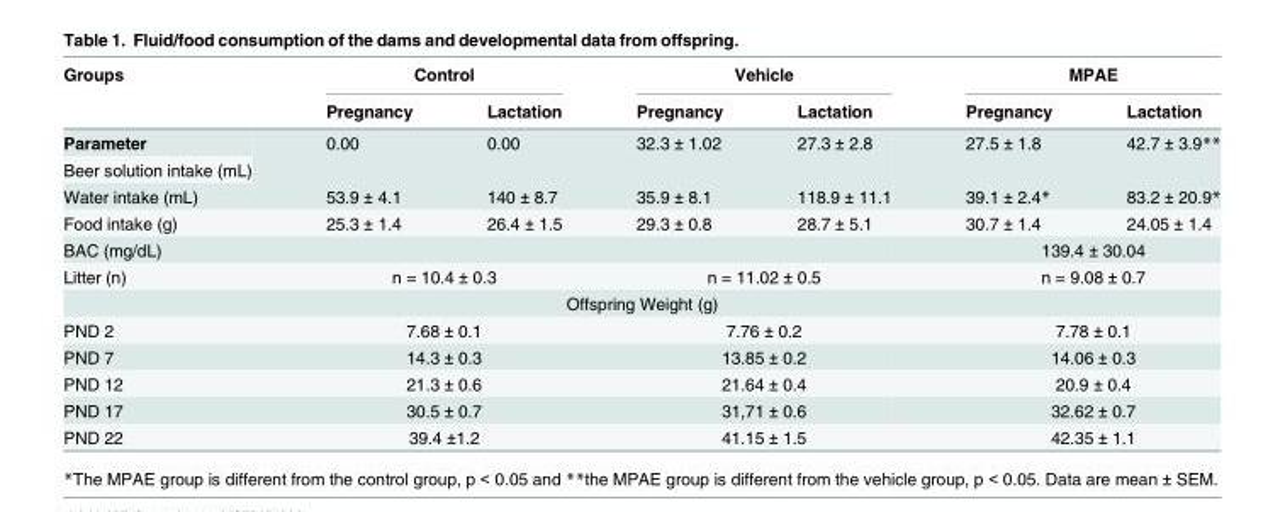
<table><thead><tr><td rowspan="2">Groups</td><td colspan="2">Control</td><td colspan="2">Vehicle</td><td colspan="2">MPAE</td></tr><tr><td>Pregnancy</td><td>Lactation</td><td>Pregnancy</td><td>Lactation</td><td>Pregnancy</td><td>Lactation</td></tr></thead><tbody><tr><td>Parameter</td><td rowspan="2">0.00</td><td rowspan="2">0.00</td><td rowspan="2">32.3 ± 1.02</td><td rowspan="2">27.3 ± 2.8</td><td rowspan="2">27.5 ± 1.8</td><td rowspan="2">42.7 ± 3.9**</td></tr><tr><td>Beer solution intake (mL)</td></tr><tr><td>Water intake (mL)</td><td>53.9 ± 4.1</td><td>140 ± 8.7</td><td>35.9 ± 8.1</td><td>118.9 ± 11.1</td><td>39.1 ± 2.4*</td><td>83.2 ± 20.9*</td></tr><tr><td>Food intake (g)</td><td>25.3 ± 1.4</td><td>26.4 ± 1.5</td><td>29.3 ± 0.8</td><td>28.7 ± 5.1</td><td>30.7 ± 1.4</td><td>24.05 ± 1.4</td></tr><tr><td>BAC (mg/dL)</td><td colspan="2"></td><td colspan="2"></td><td colspan="2">139.4 ± 30.04</td></tr><tr><td>Litter (n)</td><td colspan="2">n = 10.4 ± 0.3</td><td colspan="2">n = 11.02 ± 0.5</td><td colspan="2">n = 9.08 ± 0.7</td></tr><tr><td colspan="7">Offspring Weight (g)</td></tr><tr><td>PND 2</td><td colspan="2">7.68 ± 0.1</td><td colspan="2">7.76 ± 0.2</td><td colspan="2">7.78 ± 0.1</td></tr><tr><td>PND 7</td><td colspan="2">14.3 ± 0.3</td><td colspan="2">13.85 ± 0.2</td><td colspan="2">14.06 ± 0.3</td></tr><tr><td>PND 12</td><td colspan="2">21.3 ± 0.6</td><td colspan="2">21.64 ± 0.4</td><td colspan="2">20.9 ± 0.4</td></tr><tr><td>PND 17</td><td colspan="2">30.5 ± 0.7</td><td colspan="2">31,71 ± 0.6</td><td colspan="2">32.62 ± 0.7</td></tr><tr><td>PND 22</td><td colspan="2">39.4 ±1.2</td><td colspan="2">41.15 ± 1.5</td><td colspan="2">42.35 ± 1.1</td></tr></tbody></table>